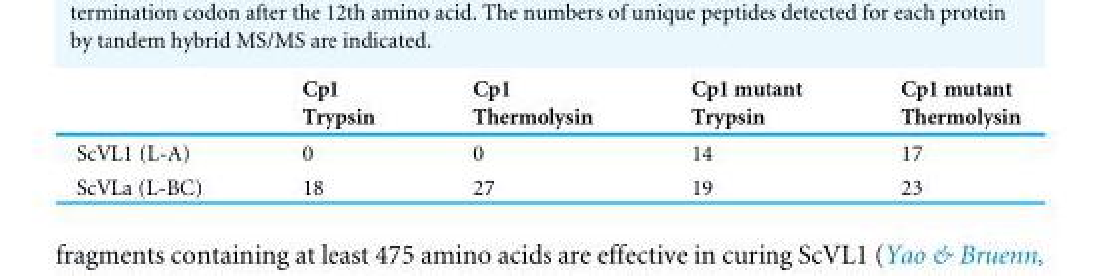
<table><thead><tr><td rowspan="2"></td><td rowspan="2">Cp1 Trypsin</td><td rowspan="2">Cp1 Thermolysin</td><td rowspan="2">Cp1 mutant Trypsin</td><td rowspan="2">Cp1 mutant Thermolysin</td></tr><tr></tr></thead><tbody><tr><td>ScVL1 (L-A)</td><td>0</td><td>0</td><td>14</td><td>17</td></tr><tr><td>ScVLa (L-BC)</td><td>18</td><td>27</td><td>19</td><td>23</td></tr></tbody></table>